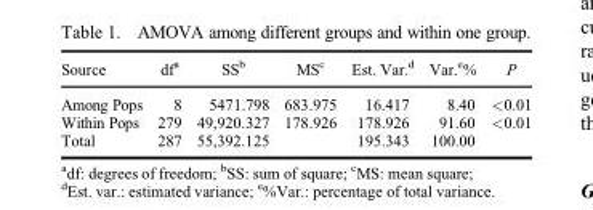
<table><thead><tr><td>Source</td><td>df<sup>a</sup></td><td>SS<sup>b</sup></td><td>MS<sup>c</sup></td><td>Est. Var.<sup>d</sup></td><td>Var.<sup>e</sup>%</td><td>P</td></tr></thead><tbody><tr><td>Among Pops</td><td>8</td><td>5471.798</td><td>683.975</td><td>16.417</td><td>8.40</td><td>&lt;0.01</td></tr><tr><td>Within Pops</td><td>279</td><td>49,920.327</td><td>178.926</td><td>178.926</td><td>91.60</td><td>&lt;0.01</td></tr><tr><td>Total</td><td>287</td><td>55,392.125</td><td></td><td>195.343</td><td>100.00</td><td></td></tr></tbody></table>